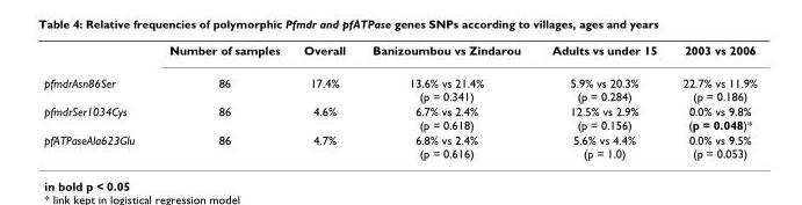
<table><thead><tr><td></td><td>Number of samples</td><td>Overall</td><td>Banizoumbou vs Zindarou</td><td>Adults vs under 15</td><td>2003 vs 2006</td></tr></thead><tbody><tr><td>pfmdrAsn86Ser</td><td>86</td><td>17.4%</td><td>13.6% vs 21.4% (p = 0.341)</td><td>5.9% vs 20.3% (p = 0.284)</td><td>22.7% vs 11.9% (p = 0.186)</td></tr><tr><td>pfmdrSer1034Cys</td><td>86</td><td>4.6%</td><td>6.7% vs 2.4% (p = 0.618)</td><td>12.5% vs 2.9% (p = 0.156)</td><td>0.0% vs 9.8% (p = 0.048)*</td></tr><tr><td>pfATPaseAla623Glu</td><td>86</td><td>4.7%</td><td>6.8% vs 2.4% (p = 0.616)</td><td>5.6% vs 4.4% (p = 1.0)</td><td>0.0% vs 9.5% (p = 0.053)</td></tr></tbody></table>